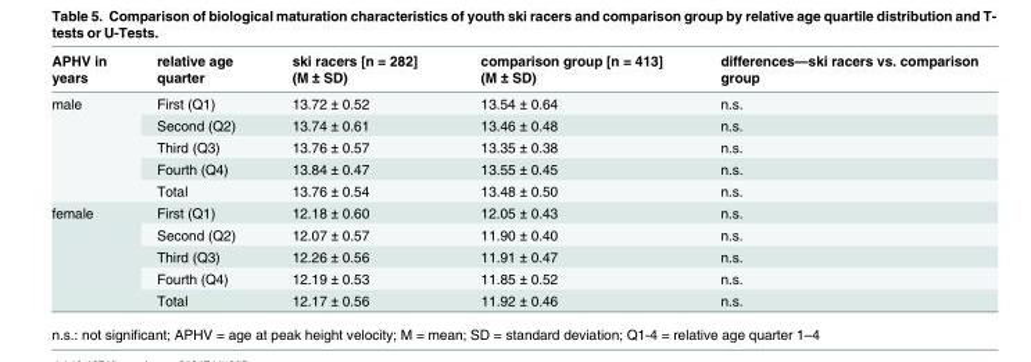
<table><thead><tr><td>APHV in years</td><td>relative age quarter</td><td>ski racers [n = 282] (M ± SD)</td><td>comparison group [n = 413] (M ± SD)</td><td>differences—ski racers vs. comparison group</td></tr></thead><tbody><tr><td rowspan="5">male</td><td>First (Q1)</td><td>13.72 ± 0.52</td><td>13.54 ± 0.64</td><td>n.s.</td></tr><tr><td>Second (Q2)</td><td>13.74 ± 0.61</td><td>13.46 ± 0.48</td><td>n.s.</td></tr><tr><td>Third (Q3)</td><td>13.76 ± 0.57</td><td>13.35 ± 0.38</td><td>n.s.</td></tr><tr><td>Fourth (Q4)</td><td>13.84 ± 0.47</td><td>13.55 ± 0.45</td><td>n.s.</td></tr><tr><td>Total</td><td>13.76 ± 0.54</td><td>13.48 ± 0.50</td><td>n.s.</td></tr><tr><td rowspan="5">female</td><td>First (Q1)</td><td>12.18 ± 0.60</td><td>12.05 ± 0.43</td><td>n.s.</td></tr><tr><td>Second (Q2)</td><td>12.07 ± 0.57</td><td>11.90 ± 0.40</td><td>n.s.</td></tr><tr><td>Third (Q3)</td><td>12.26 ± 0.56</td><td>11.91 ± 0.47</td><td>n.s.</td></tr><tr><td>Fourth (Q4)</td><td>12.19 ± 0.53</td><td>11.85 ± 0.52</td><td>n.s.</td></tr><tr><td>Total</td><td>12.17 ± 0.56</td><td>11.92 ± 0.46</td><td>n.s.</td></tr></tbody></table>